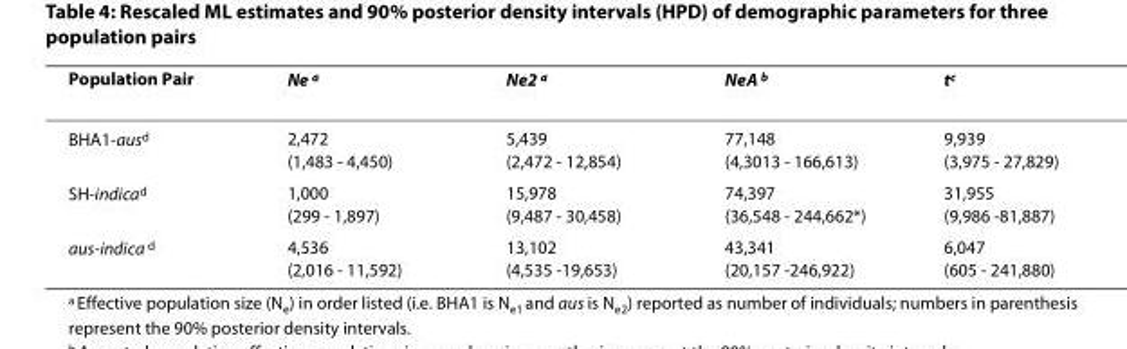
<table><thead><tr><td>Population Pair</td><td>Ne a</td><td>N<sub>e2</sub> <sup>a</sup></td><td>N<sub>eA</sub> <sup>b</sup></td><td>t<sup>c</sup></td></tr></thead><tbody><tr><td>BHA1-aus<sup>d</sup></td><td>2,472 (1,483 - 4,450)</td><td>5,439 (2,472 - 12,854)</td><td>77,148 (4,3013 - 166,613)</td><td>9,939 (3,975 - 27,829)</td></tr><tr><td>SH-indica<sup>d</sup></td><td>1,000 (299 - 1,897)</td><td>15,978 (9,487 - 30,458)</td><td>74,397 (36,548 - 244,662*)</td><td>31,955 (9,986 -81,887)</td></tr><tr><td>aus-indica <sup>d</sup></td><td>4,536 (2,016 - 11,592)</td><td>13,102 (4,535 -19,653)</td><td>43,341 (20,157 -246,922)</td><td>6,047 (605 - 241,880)</td></tr></tbody></table>